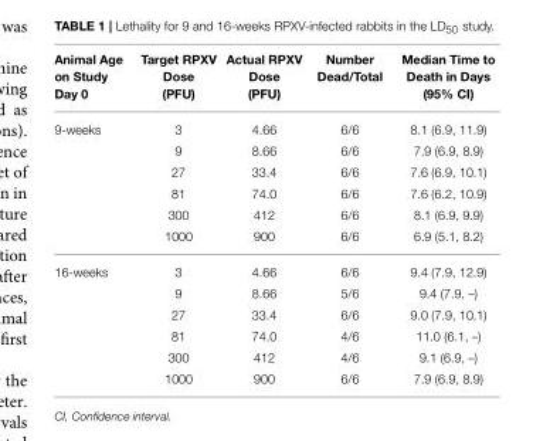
<table><thead><tr><td>Animal Age on Study Day 0</td><td>Target RPXV Dose (PFU)</td><td>Actual RPXV Dose (PFU)</td><td>Number Dead/Total</td><td>Median Time to Death in Days (95% CI)</td></tr></thead><tbody><tr><td rowspan="6">9-weeks</td><td>3</td><td>4.66</td><td>6/6</td><td>8.1 (6.9, 11.9)</td></tr><tr><td>9</td><td>8.66</td><td>6/6</td><td>7.9 (6.9, 8.9)</td></tr><tr><td>27</td><td>33.4</td><td>6/6</td><td>7.6 (6.9, 10.1)</td></tr><tr><td>81</td><td>74.0</td><td>6/6</td><td>7.6 (6.2, 10.9)</td></tr><tr><td>300</td><td>412</td><td>6/6</td><td>8.1 (6.9, 9.9)</td></tr><tr><td>1000</td><td>900</td><td>6/6</td><td>6.9 (5.1, 8.2)</td></tr><tr><td rowspan="6">16-weeks</td><td>3</td><td>4.66</td><td>6/6</td><td>9.4 (7.9, 12.9)</td></tr><tr><td>9</td><td>8.66</td><td>5/6</td><td>9.4 (7.9, –)</td></tr><tr><td>27</td><td>33.4</td><td>6/6</td><td>9.0 (7.9, 10.1)</td></tr><tr><td>81</td><td>74.0</td><td>4/6</td><td>11.0 (6.1, –)</td></tr><tr><td>300</td><td>412</td><td>4/6</td><td>9.1 (6.9, –)</td></tr><tr><td>1000</td><td>900</td><td>6/6</td><td>7.9 (6.9, 8.9)</td></tr></tbody></table>